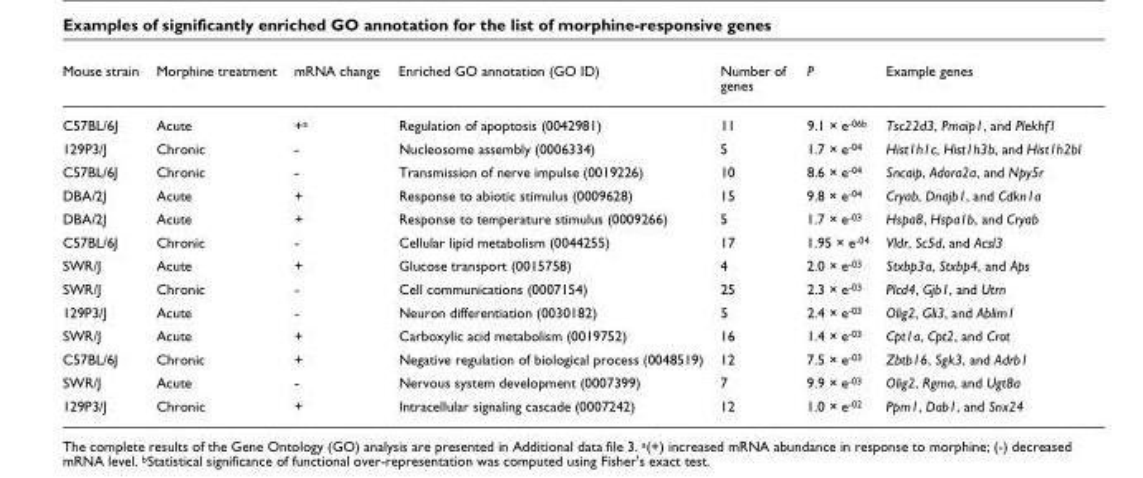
<table><thead><tr><td>Mouse strain</td><td>Morphine treatment</td><td>mRNA change</td><td>Enriched GO annotation (GO ID)</td><td>Number of genes</td><td>P</td><td>Example genes</td></tr></thead><tbody><tr><td>C57BL/6J</td><td>Acute</td><td>+<sup>a</sup></td><td>Regulation of apoptosis (0042981)</td><td>11</td><td>9.1 × e<sup>-06b</sup></td><td>Tsc22d3, Pmaip1, and Plekhf1</td></tr><tr><td>129P3/J</td><td>Chronic</td><td>-</td><td>Nucleosome assembly (0006334)</td><td>5</td><td>1.7 × e<sup>-04</sup></td><td>Hist1h1c, Hist1h3b, and Hist1h2bl</td></tr><tr><td>C57BL/6J</td><td>Chronic</td><td>-</td><td>Transmission of nerve impulse (0019226)</td><td>10</td><td>8.6 × e<sup>-04</sup></td><td>Sncaip, Adora2a, and Npy5r</td></tr><tr><td>DBA/2J</td><td>Acute</td><td>+</td><td>Response to abiotic stimulus (0009628)</td><td>15</td><td>9.8 × e<sup>-04</sup></td><td>Cryab, Dnajb1, and Cdkn1a</td></tr><tr><td>DBA/2J</td><td>Acute</td><td>+</td><td>Response to temperature stimulus (0009266)</td><td>5</td><td>1.7 × e<sup>-03</sup></td><td>Hspa8, Hspa1b, and Cryab</td></tr><tr><td>C57BL/6J</td><td>Chronic</td><td>-</td><td>Cellular lipid metabolism (0044255)</td><td>17</td><td>1.95 × e<sup>-04</sup></td><td>Vldr, Sc5d, and Acsl3</td></tr><tr><td>SWR/J</td><td>Acute</td><td>+</td><td>Glucose transport (0015758)</td><td>4</td><td>2.0 × e<sup>-03</sup></td><td>Stxbp3a, Stxbp4, and Aps</td></tr><tr><td>SWR/J</td><td>Chronic</td><td>-</td><td>Cell communications (0007154)</td><td>25</td><td>2.3 × e<sup>-03</sup></td><td>Plcd4, Gjb1, and Utrn</td></tr><tr><td>129P3/J</td><td>Acute</td><td>-</td><td>Neuron differentiation (0030182)</td><td>5</td><td>2.4 × e<sup>-03</sup></td><td>Olig2, Gli3, and Ablim1</td></tr><tr><td>SWR/J</td><td>Acute</td><td>+</td><td>Carboxylic acid metabolism (0019752)</td><td>16</td><td>1.4 × e<sup>-03</sup></td><td>Cpt1a, Cpt2, and Crot</td></tr><tr><td>C57BL/6J</td><td>Chronic</td><td>+</td><td>Negative regulation of biological process (0048519)</td><td>12</td><td>7.5 × e<sup>-03</sup></td><td>Zbtb16, Sgk3, and Adrb1</td></tr><tr><td>SWR/J</td><td>Acute</td><td>-</td><td>Nervous system development (0007399)</td><td>7</td><td>9.9 × e<sup>-03</sup></td><td>Olig2, Rgma, and Ugt8a</td></tr><tr><td>129P3/J</td><td>Chronic</td><td>+</td><td>Intracellular signaling cascade (0007242)</td><td>12</td><td>1.0 × e<sup>-02</sup></td><td>Ppm1, Dab1, and Snx24</td></tr></tbody></table>